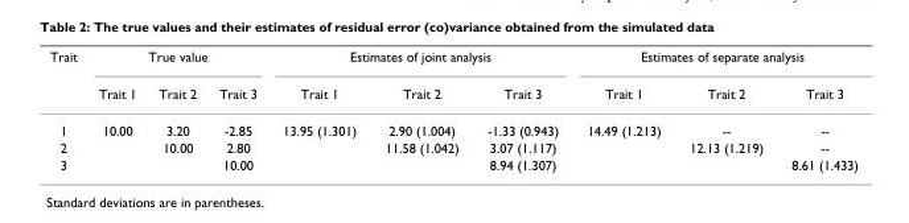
<table><thead><tr><td rowspan="2">Trait</td><td colspan="3">True value</td><td colspan="3">Estimates of joint analysis</td><td colspan="3">Estimates of separate analysis</td></tr><tr><td>Trait 1</td><td>Trait 2</td><td>Trait 3</td><td>Trait 1</td><td>Trait 2</td><td>Trait 3</td><td>Trait 1</td><td>Trait 2</td><td>Trait 3</td></tr></thead><tbody><tr><td>1</td><td>10.00</td><td>3.20</td><td>-2.85</td><td>13.95 (1.301)</td><td>2.90 (1.004)</td><td>-1.33 (0.943)</td><td>14.49 (1.213)</td><td>--</td><td>--</td></tr><tr><td>2</td><td></td><td>10.00</td><td>2.80</td><td></td><td>11.58 (1.042)</td><td>3.07 (1.117)</td><td></td><td>12.13 (1.219)</td><td>--</td></tr><tr><td>3</td><td></td><td></td><td>10.00</td><td></td><td></td><td>8.94 (1.307)</td><td></td><td></td><td>8.61 (1.433)</td></tr></tbody></table>